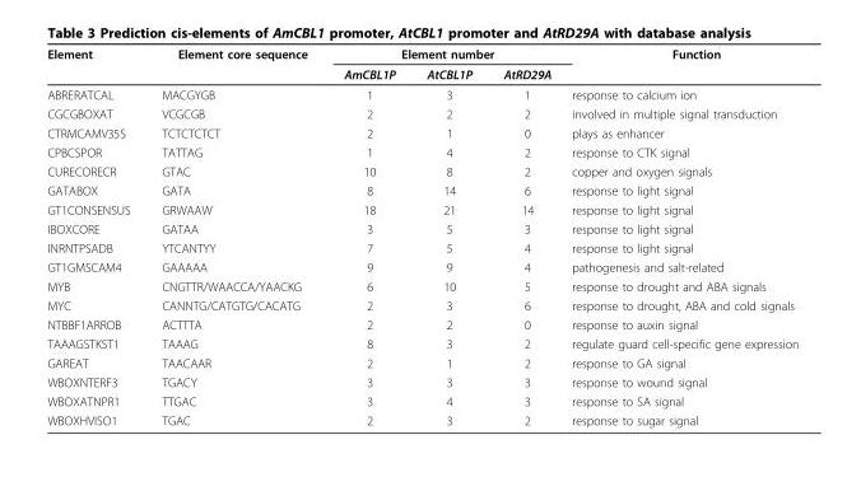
<table><thead><tr><td rowspan="2">Element</td><td rowspan="2">Element core sequence</td><td colspan="3">Element number</td><td rowspan="2">Function</td></tr><tr><td>AmCBL1P</td><td>AtCBL1P</td><td>AtRD29A</td></tr></thead><tbody><tr><td>ABRERATCAL</td><td>MACGYGB</td><td>1</td><td>3</td><td>1</td><td>response to calcium ion</td></tr><tr><td>CGCGBOXAT</td><td>VCGCGB</td><td>2</td><td>2</td><td>2</td><td>involved in multiple signal transduction</td></tr><tr><td>CTRMCAMV35S</td><td>TCTCTCTCT</td><td>2</td><td>1</td><td>0</td><td>plays as enhancer</td></tr><tr><td>CPBCSPOR</td><td>TATTAG</td><td>1</td><td>4</td><td>2</td><td>response to CTK signal</td></tr><tr><td>CURECORECR</td><td>GTAC</td><td>10</td><td>8</td><td>2</td><td>copper and oxygen signals</td></tr><tr><td>GATABOX</td><td>GATA</td><td>8</td><td>14</td><td>6</td><td>response to light signal</td></tr><tr><td>GT1CONSENSUS</td><td>GRWAAW</td><td>18</td><td>21</td><td>14</td><td>response to light signal</td></tr><tr><td>IBOXCORE</td><td>GATAA</td><td>3</td><td>5</td><td>3</td><td>response to light signal</td></tr><tr><td>INRNTPSADB</td><td>YTCANTYY</td><td>7</td><td>5</td><td>4</td><td>response to light signal</td></tr><tr><td>GT1GMSCAM4</td><td>GAAAAA</td><td>9</td><td>9</td><td>4</td><td>pathogenesis and salt-related</td></tr><tr><td>MYB</td><td>CNGTTR/WAACCA/YAACKG</td><td>6</td><td>10</td><td>5</td><td>response to drought and ABA signals</td></tr><tr><td>MYC</td><td>CANNTG/CATGTG/CACATG</td><td>2</td><td>3</td><td>6</td><td>response to drought, ABA and cold signals</td></tr><tr><td>NTBBF1ARROB</td><td>ACTTTA</td><td>2</td><td>2</td><td>0</td><td>response to auxin signal</td></tr><tr><td>TAAAGSTKST1</td><td>TAAAG</td><td>8</td><td>3</td><td>2</td><td>regulate guard cell-specific gene expression</td></tr><tr><td>GAREAT</td><td>TAACAAR</td><td>2</td><td>1</td><td>2</td><td>response to GA signal</td></tr><tr><td>WBOXNTERF3</td><td>TGACY</td><td>3</td><td>3</td><td>3</td><td>response to wound signal</td></tr><tr><td>WBOXATNPR1</td><td>TTGAC</td><td>3</td><td>4</td><td>3</td><td>response to SA signal</td></tr><tr><td>WBOXHVISO1</td><td>TGAC</td><td>2</td><td>3</td><td>2</td><td>response to sugar signal</td></tr></tbody></table>